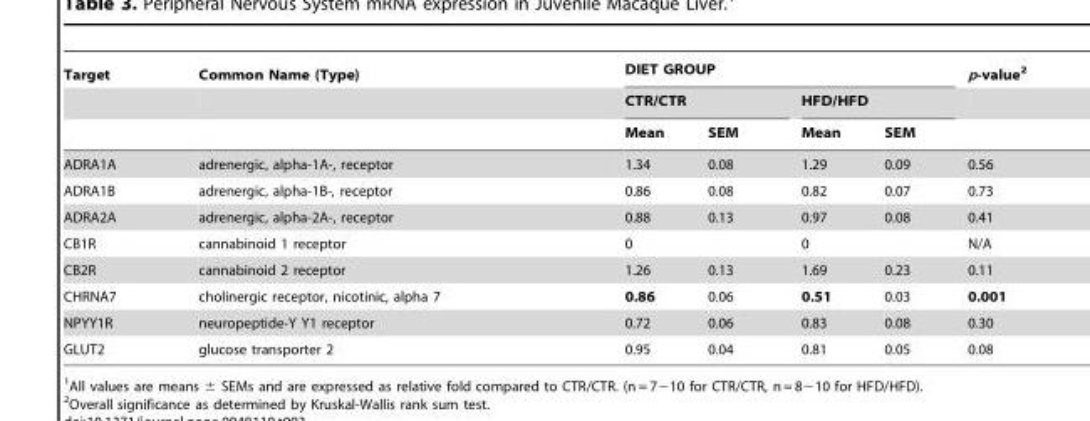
<table><thead><tr><td rowspan="3">Target</td><td rowspan="3">Common Name (Type)</td><td colspan="4">DIET GROUP</td><td rowspan="3">p-value<sup>2</sup></td></tr><tr><td colspan="2">CTR/CTR</td><td colspan="2">HFD/HFD</td></tr><tr><td>Mean</td><td>SEM</td><td>Mean</td><td>SEM</td></tr></thead><tbody><tr><td>ADRA1A</td><td>adrenergic, alpha-1A-, receptor</td><td>1.34</td><td>0.08</td><td>1.29</td><td>0.09</td><td>0.56</td></tr><tr><td>ADRA1B</td><td>adrenergic, alpha-1B-, receptor</td><td>0.86</td><td>0.08</td><td>0.82</td><td>0.07</td><td>0.73</td></tr><tr><td>ADRA2A</td><td>adrenergic, alpha-2A-, receptor</td><td>0.88</td><td>0.13</td><td>0.97</td><td>0.08</td><td>0.41</td></tr><tr><td>CB1R</td><td>cannabinoid 1 receptor</td><td>0</td><td></td><td>0</td><td></td><td>N/A</td></tr><tr><td>CB2R</td><td>cannabinoid 2 receptor</td><td>1.26</td><td>0.13</td><td>1.69</td><td>0.23</td><td>0.11</td></tr><tr><td>CHRNA7</td><td>cholinergic receptor, nicotinic, alpha 7</td><td>0.86</td><td>0.06</td><td>0.51</td><td>0.03</td><td>0.001</td></tr><tr><td>NPYY1R</td><td>neuropeptide-Y Y1 receptor</td><td>0.72</td><td>0.06</td><td>0.83</td><td>0.08</td><td>0.30</td></tr><tr><td>GLUT2</td><td>glucose transporter 2</td><td>0.95</td><td>0.04</td><td>0.81</td><td>0.05</td><td>0.08</td></tr></tbody></table>